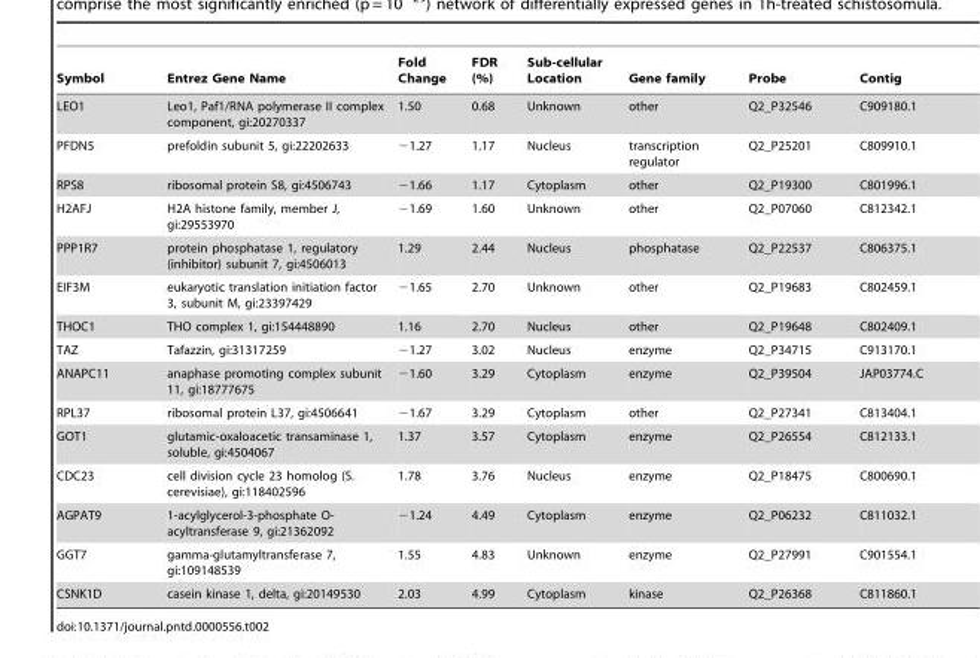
<table><thead><tr><td>Symbol</td><td>Entrez Gene Name</td><td>Fold Change</td><td>FDR (%)</td><td>Sub-cellular Location</td><td>Gene family</td><td>Probe</td><td>Contig</td></tr></thead><tbody><tr><td>LEO1</td><td>Leo1, Paf1/RNA polymerase II complex component, gi:20270337</td><td>1.50</td><td>0.68</td><td>Unknown</td><td>other</td><td>Q2_P32546</td><td>C909180.1</td></tr><tr><td>PFDN5</td><td>prefoldin subunit 5, gi:22202633</td><td>−1.27</td><td>1.17</td><td>Nucleus</td><td>transcription regulator</td><td>Q2_P25201</td><td>C809910.1</td></tr><tr><td>RPS8</td><td>ribosomal protein S8, gi:4506743</td><td>−1.66</td><td>1.17</td><td>Cytoplasm</td><td>other</td><td>Q2_P19300</td><td>C801996.1</td></tr><tr><td>H2AFJ</td><td>H2A histone family, member J, gi:29553970</td><td>−1.69</td><td>1.60</td><td>Unknown</td><td>other</td><td>Q2_P07060</td><td>C812342.1</td></tr><tr><td>PPP1R7</td><td>protein phosphatase 1, regulatory (inhibitor) subunit 7, gi:4506013</td><td>1.29</td><td>2.44</td><td>Nucleus</td><td>phosphatase</td><td>Q2_P22537</td><td>C806375.1</td></tr><tr><td>EIF3M</td><td>eukaryotic translation initiation factor 3, subunit M, gi:23397429</td><td>−1.65</td><td>2.70</td><td>Unknown</td><td>other</td><td>Q2_P19683</td><td>C802459.1</td></tr><tr><td>THOC1</td><td>THO complex 1, gi:154448890</td><td>1.16</td><td>2.70</td><td>Nucleus</td><td>other</td><td>Q2_P19648</td><td>C802409.1</td></tr><tr><td>TAZ</td><td>Tafazzin, gi:31317259</td><td>−1.27</td><td>3.02</td><td>Nucleus</td><td>enzyme</td><td>Q2_P34715</td><td>C913170.1</td></tr><tr><td>ANAPC11</td><td>anaphase promoting complex subunit 11, gi:18777675</td><td>−1.60</td><td>3.29</td><td>Cytoplasm</td><td>enzyme</td><td>Q2_P39504</td><td>JAP03774.C</td></tr><tr><td>RPL37</td><td>ribosomal protein L37, gi:4506641</td><td>−1.67</td><td>3.29</td><td>Cytoplasm</td><td>other</td><td>Q2_P27341</td><td>C813404.1</td></tr><tr><td>GOT1</td><td>glutamic-oxaloacetic transaminase 1, soluble, gi:4504067</td><td>1.37</td><td>3.57</td><td>Cytoplasm</td><td>enzyme</td><td>Q2_P26554</td><td>C812133.1</td></tr><tr><td>CDC23</td><td>cell division cycle 23 homolog (S. cerevisiae), gi:118402596</td><td>1.78</td><td>3.76</td><td>Nucleus</td><td>enzyme</td><td>Q2_P18475</td><td>C800690.1</td></tr><tr><td>AGPAT9</td><td>1-acylglycerol-3-phosphate O- acyltransferase 9, gi:21362092</td><td>−1.24</td><td>4.49</td><td>Cytoplasm</td><td>enzyme</td><td>Q2_P06232</td><td>C811032.1</td></tr><tr><td>GGT7</td><td>gamma-glutamyltransferase 7, gi:109148539</td><td>1.55</td><td>4.83</td><td>Unknown</td><td>enzyme</td><td>Q2_P27991</td><td>C901554.1</td></tr><tr><td>CSNK1D</td><td>casein kinase 1, delta, gi:20149530</td><td>2.03</td><td>4.99</td><td>Cytoplasm</td><td>kinase</td><td>Q2_P26368</td><td>C811860.1</td></tr></tbody></table>